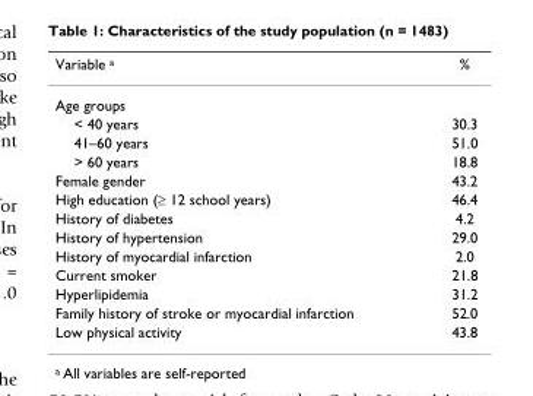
<table><thead><tr><td>Variable <sup>a</sup></td><td>%</td></tr></thead><tbody><tr><td colspan="2">Age groups</td></tr><tr><td>&lt; 40 years</td><td>30.3</td></tr><tr><td>41–60 years</td><td>51.0</td></tr><tr><td>&gt; 60 years</td><td>18.8</td></tr><tr><td>Female gender</td><td>43.2</td></tr><tr><td>High education (≥ 12 school years)</td><td>46.4</td></tr><tr><td>History of diabetes</td><td>4.2</td></tr><tr><td>History of hypertension</td><td>29.0</td></tr><tr><td>History of myocardial infarction</td><td>2.0</td></tr><tr><td>Current smoker</td><td>21.8</td></tr><tr><td>Hyperlipidemia</td><td>31.2</td></tr><tr><td>Family history of stroke or myocardial infarction</td><td>52.0</td></tr><tr><td>Low physical activity</td><td>43.8</td></tr></tbody></table>